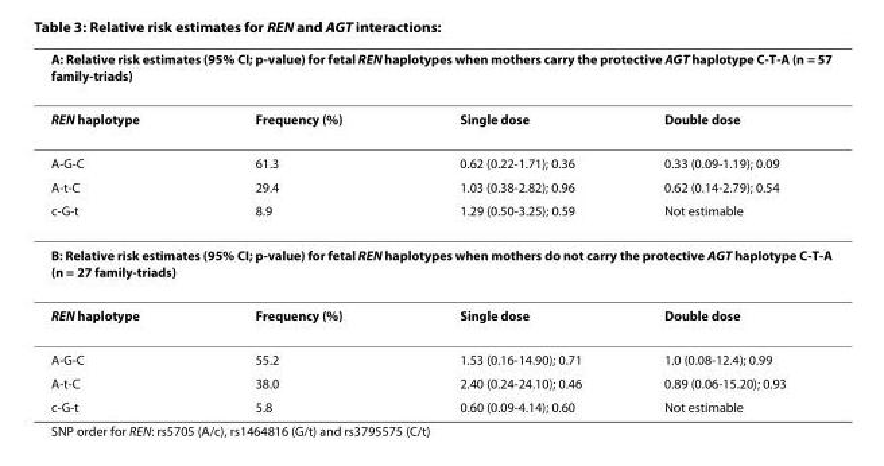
<table><thead><tr><td colspan="4">A: Relative risk estimates (95% CI; p-value) for fetal REN haplotypes when mothers carry the protective AGT haplotype C-T-A (n = 57 family-triads)</td></tr><tr><td>REN haplotype</td><td>Frequency (%)</td><td>Single dose</td><td>Double dose</td></tr></thead><tbody><tr><td>A-G-C</td><td>61.3</td><td>0.62 (0.22-1.71); 0.36</td><td>0.33 (0.09-1.19); 0.09</td></tr><tr><td>A-t-C</td><td>29.4</td><td>1.03 (0.38-2.82); 0.96</td><td>0.62 (0.14-2.79); 0.54</td></tr><tr><td>c-G-t</td><td>8.9</td><td>1.29 (0.50-3.25); 0.59</td><td>Not estimable</td></tr><tr><td colspan="4">B: Relative risk estimates (95% CI; p-value) for fetal REN haplotypes when mothers do not carry the protective AGT haplotype C-T-A (n = 27 family-triads)</td></tr><tr><td>REN haplotype</td><td>Frequency (%)</td><td>Single dose</td><td>Double dose</td></tr><tr><td>A-G-C</td><td>55.2</td><td>1.53 (0.16-14.90); 0.71</td><td>1.0 (0.08-12.4); 0.99</td></tr><tr><td>A-t-C</td><td>38.0</td><td>2.40 (0.24-24.10); 0.46</td><td>0.89 (0.06-15.20); 0.93</td></tr><tr><td>c-G-t</td><td>5.8</td><td>0.60 (0.09-4.14); 0.60</td><td>Not estimable</td></tr></tbody></table>